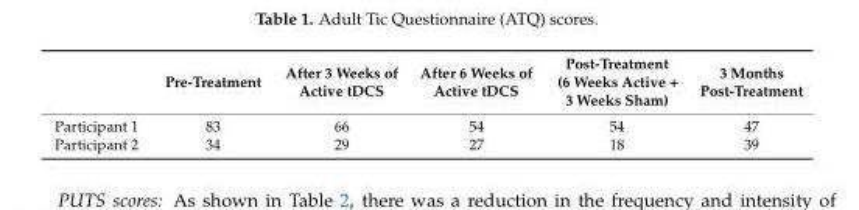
<table><thead><tr><td></td><td>Pre-Treatment</td><td>After 3 Weeks of Active tDCS</td><td>After 6 Weeks of Active tDCS</td><td>Post-Treatment (6 Weeks Active + 3 Weeks Sham)</td><td>3 Months Post-Treatment</td></tr></thead><tbody><tr><td>Participant 1</td><td>83</td><td>66</td><td>54</td><td>54</td><td>47</td></tr><tr><td>Participant 2</td><td>34</td><td>29</td><td>27</td><td>18</td><td>39</td></tr></tbody></table>